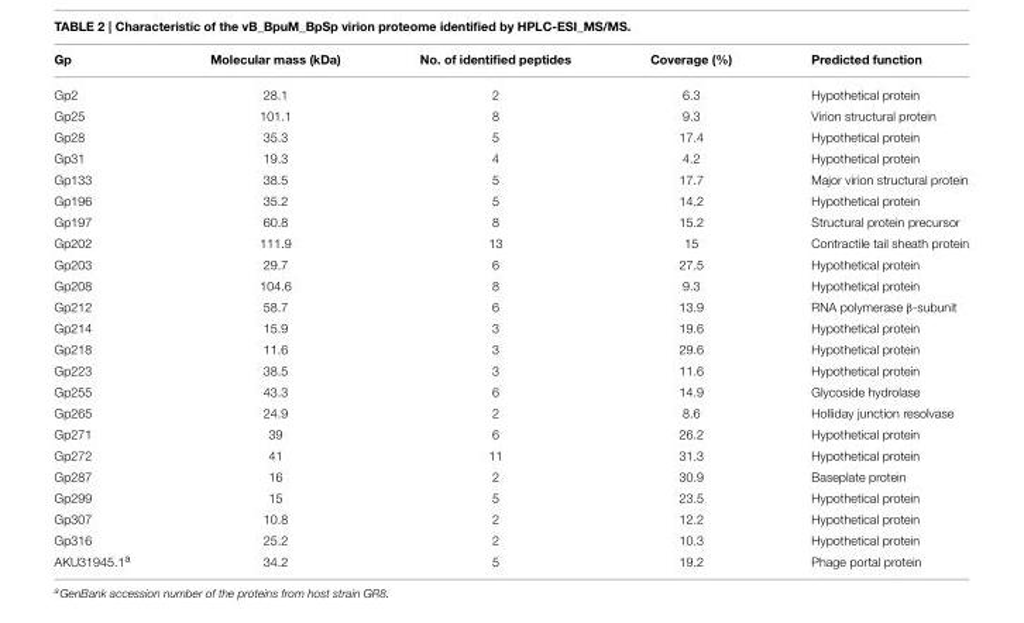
<table><thead><tr><td>Gp</td><td>Molecular mass (kDa)</td><td>No. of identified peptides</td><td>Coverage (%)</td><td>Predicted function</td></tr></thead><tbody><tr><td>Gp2</td><td>28.1</td><td>2</td><td>6.3</td><td>Hypothetical protein</td></tr><tr><td>Gp25</td><td>101.1</td><td>8</td><td>9.3</td><td>Virion structural protein</td></tr><tr><td>Gp28</td><td>35.3</td><td>5</td><td>17.4</td><td>Hypothetical protein</td></tr><tr><td>Gp31</td><td>19.3</td><td>4</td><td>4.2</td><td>Hypothetical protein</td></tr><tr><td>Gp133</td><td>38.5</td><td>5</td><td>17.7</td><td>Major virion structural protein</td></tr><tr><td>Gp196</td><td>35.2</td><td>5</td><td>14.2</td><td>Hypothetical protein</td></tr><tr><td>Gp197</td><td>60.8</td><td>8</td><td>15.2</td><td>Structural protein precursor</td></tr><tr><td>Gp202</td><td>111.9</td><td>13</td><td>15</td><td>Contractile tail sheath protein</td></tr><tr><td>Gp203</td><td>29.7</td><td>6</td><td>27.5</td><td>Hypothetical protein</td></tr><tr><td>Gp208</td><td>104.6</td><td>8</td><td>9.3</td><td>Hypothetical protein</td></tr><tr><td>Gp212</td><td>58.7</td><td>6</td><td>13.9</td><td>RNA polymerase β-subunit</td></tr><tr><td>Gp214</td><td>15.9</td><td>3</td><td>19.6</td><td>Hypothetical protein</td></tr><tr><td>Gp218</td><td>11.6</td><td>3</td><td>29.6</td><td>Hypothetical protein</td></tr><tr><td>Gp223</td><td>38.5</td><td>3</td><td>11.6</td><td>Hypothetical protein</td></tr><tr><td>Gp255</td><td>43.3</td><td>6</td><td>14.9</td><td>Glycoside hydrolase</td></tr><tr><td>Gp265</td><td>24.9</td><td>2</td><td>8.6</td><td>Holliday junction resolvase</td></tr><tr><td>Gp271</td><td>39</td><td>6</td><td>26.2</td><td>Hypothetical protein</td></tr><tr><td>Gp272</td><td>41</td><td>11</td><td>31.3</td><td>Hypothetical protein</td></tr><tr><td>Gp287</td><td>16</td><td>2</td><td>30.9</td><td>Baseplate protein</td></tr><tr><td>Gp299</td><td>15</td><td>5</td><td>23.5</td><td>Hypothetical protein</td></tr><tr><td>Gp307</td><td>10.8</td><td>2</td><td>12.2</td><td>Hypothetical protein</td></tr><tr><td>Gp316</td><td>25.2</td><td>2</td><td>10.3</td><td>Hypothetical protein</td></tr><tr><td>AKU31945.1<sup>a</sup></td><td>34.2</td><td>5</td><td>19.2</td><td>Phage portal protein</td></tr></tbody></table>